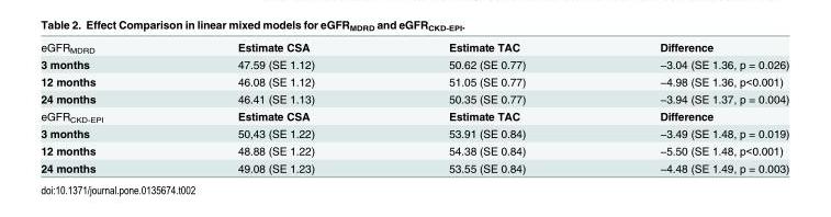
<table><tbody><tr><td>eGFR<sub>MDRD</sub></td><td>Estimate CSA</td><td>Estimate TAC</td><td>Difference</td></tr><tr><td>3 months</td><td>47.59 (SE 1.12)</td><td>50.62 (SE 0.77)</td><td>−3.04 (SE 1.36, p = 0.026)</td></tr><tr><td>12 months</td><td>46.08 (SE 1.12)</td><td>51.05 (SE 0.77)</td><td>−4.98 (SE 1.36, p&lt;0.001)</td></tr><tr><td>24 months</td><td>46.41 (SE 1.13)</td><td>50.35 (SE 0.77)</td><td>−3.94 (SE 1.37, p = 0.004)</td></tr><tr><td>eGFR<sub>CKD-EPI</sub></td><td>Estimate CSA</td><td>Estimate TAC</td><td>Difference</td></tr><tr><td>3 months</td><td>50,43 (SE 1.22)</td><td>53.91 (SE 0.84)</td><td>−3.49 (SE 1.48, p = 0.019)</td></tr><tr><td>12 months</td><td>48.88 (SE 1.22)</td><td>54.38 (SE 0.84)</td><td>−5.50 (SE 1.48, p&lt;0.001)</td></tr><tr><td>24 months</td><td>49.08 (SE 1.23)</td><td>53.55 (SE 0.84)</td><td>−4.48 (SE 1.49, p = 0.003)</td></tr></tbody></table>